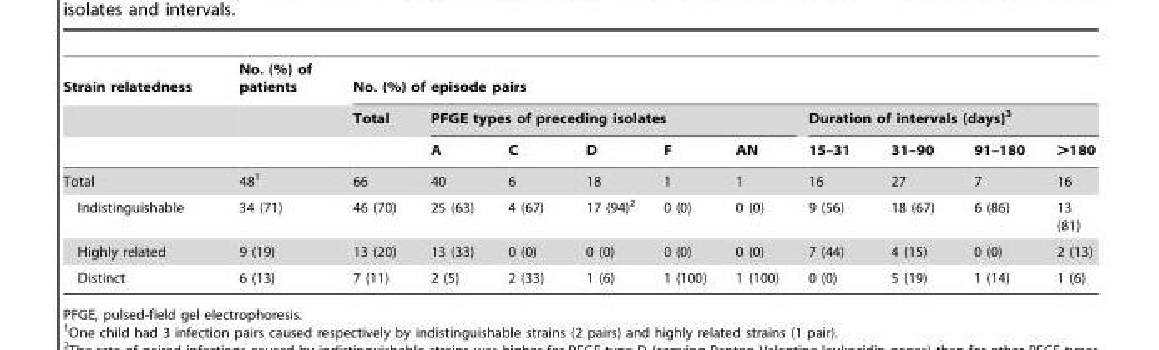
<table><thead><tr><td rowspan="3">Strain relatedness</td><td rowspan="3">No. (%) of patients</td><td colspan="10">No. (%) of episode pairs</td></tr><tr><td rowspan="2">Total</td><td colspan="5">PFGE types of preceding isolates</td><td colspan="4">Duration of intervals (days)<sup>3</sup></td></tr><tr><td>A</td><td>C</td><td>D</td><td>F</td><td>AN</td><td>15–31</td><td>31–90</td><td>91–180</td><td>&gt;180</td></tr></thead><tbody><tr><td>Total</td><td>48<sup>1</sup></td><td>66</td><td>40</td><td>6</td><td>18</td><td>1</td><td>1</td><td>16</td><td>27</td><td>7</td><td>16</td></tr><tr><td>Indistinguishable</td><td>34 (71)</td><td>46 (70)</td><td>25 (63)</td><td>4 (67)</td><td>17 (94)<sup>2</sup></td><td>0 (0)</td><td>0 (0)</td><td>9 (56)</td><td>18 (67)</td><td>6 (86)</td><td>13 (81)</td></tr><tr><td>Highly related</td><td>9 (19)</td><td>13 (20)</td><td>13 (33)</td><td>0 (0)</td><td>0 (0)</td><td>0 (0)</td><td>0 (0)</td><td>7 (44)</td><td>4 (15)</td><td>0 (0)</td><td>2 (13)</td></tr><tr><td>Distinct</td><td>6 (13)</td><td>7 (11)</td><td>2 (5)</td><td>2 (33)</td><td>1 (6)</td><td>1 (100)</td><td>1 (100)</td><td>0 (0)</td><td>5 (19)</td><td>1 (14)</td><td>1 (6)</td></tr></tbody></table>